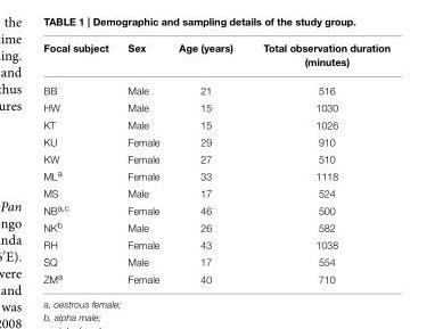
<table><thead><tr><td>Focal subject</td><td>Sex</td><td>Age (years)</td><td>Total observation duration (minutes)</td></tr></thead><tbody><tr><td>BB</td><td>Male</td><td>21</td><td>516</td></tr><tr><td>HW</td><td>Male</td><td>15</td><td>1030</td></tr><tr><td>KT</td><td>Male</td><td>15</td><td>1026</td></tr><tr><td>KU</td><td>Female</td><td>29</td><td>910</td></tr><tr><td>KW</td><td>Female</td><td>27</td><td>510</td></tr><tr><td>ML<sup>a</sup></td><td>Female</td><td>33</td><td>1118</td></tr><tr><td>MS</td><td>Male</td><td>17</td><td>524</td></tr><tr><td>NB<sup>a</sup>,<sup>c</sup></td><td>Female</td><td>46</td><td>500</td></tr><tr><td>NK<sup>b</sup></td><td>Male</td><td>26</td><td>582</td></tr><tr><td>RH</td><td>Female</td><td>43</td><td>1038</td></tr><tr><td>SQ</td><td>Male</td><td>17</td><td>554</td></tr><tr><td>ZM<sup>a</sup></td><td>Female</td><td>40</td><td>710</td></tr></tbody></table>